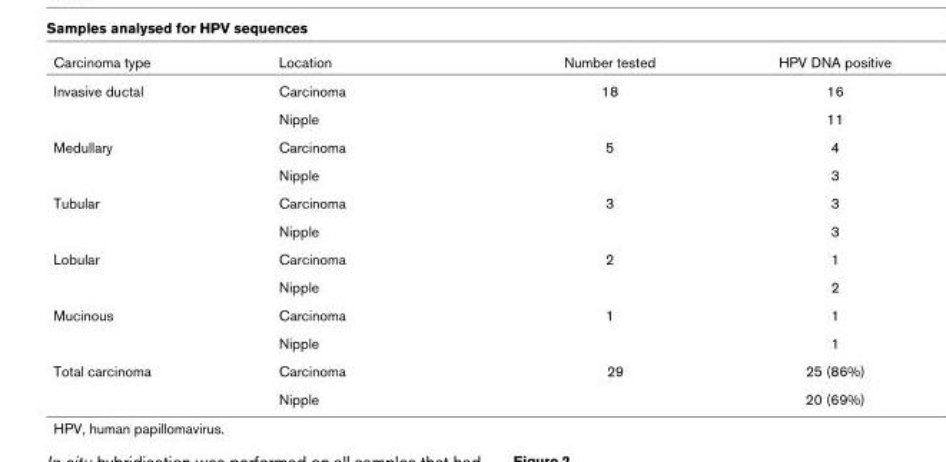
<table><thead><tr><td>Carcinoma type</td><td>Location</td><td>Number tested</td><td>HPV DNA positive</td></tr></thead><tbody><tr><td rowspan="2">Invasive ductal</td><td>Carcinoma</td><td>18</td><td>16</td></tr><tr><td>Nipple</td><td></td><td>11</td></tr><tr><td rowspan="2">Medullary</td><td>Carcinoma</td><td>5</td><td>4</td></tr><tr><td>Nipple</td><td></td><td>3</td></tr><tr><td rowspan="2">Tubular</td><td>Carcinoma</td><td>3</td><td>3</td></tr><tr><td>Nipple</td><td></td><td>3</td></tr><tr><td rowspan="2">Lobular</td><td>Carcinoma</td><td>2</td><td>1</td></tr><tr><td>Nipple</td><td></td><td>2</td></tr><tr><td rowspan="2">Mucinous</td><td>Carcinoma</td><td>1</td><td>1</td></tr><tr><td>Nipple</td><td></td><td>1</td></tr><tr><td rowspan="2">Total carcinoma</td><td>Carcinoma</td><td>29</td><td>25 (86%)</td></tr><tr><td>Nipple</td><td></td><td>20 (69%)</td></tr></tbody></table>